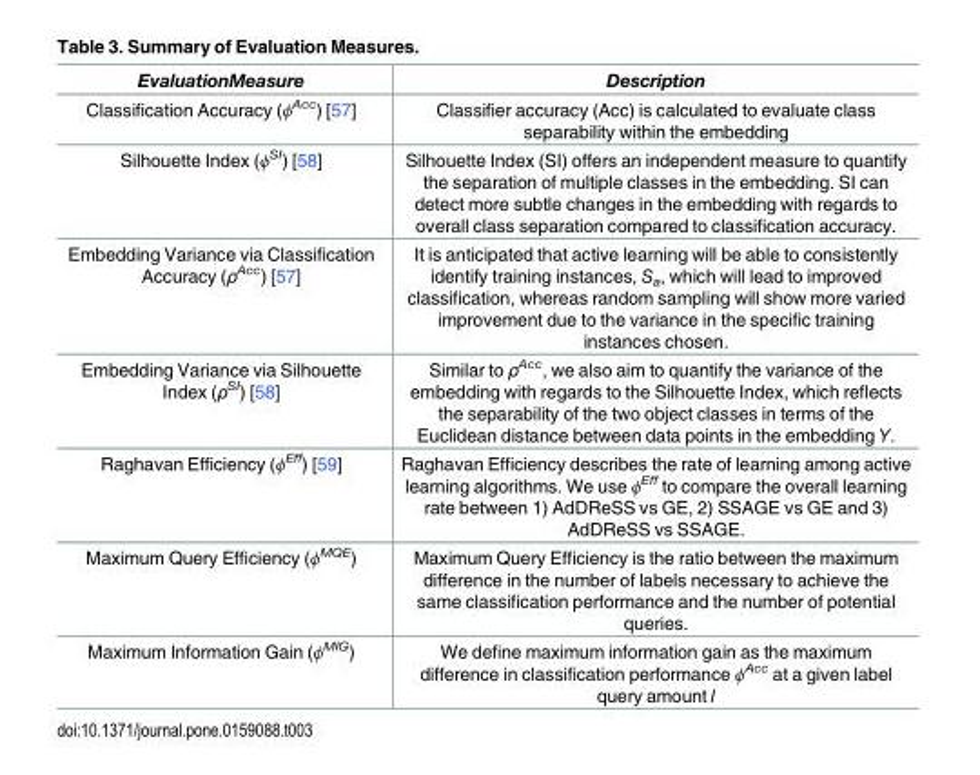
<table><thead><tr><td>EvaluationMeasure</td><td>Description</td></tr></thead><tbody><tr><td>Classification Accuracy (ϕ<sup>Acc</sup>) [57]</td><td>Classifier accuracy (Acc) is calculated to evaluate class separability within the embedding</td></tr><tr><td>Silhouette Index (ϕ<sup>SI</sup>) [58]</td><td>Silhouette Index (SI) offers an independent measure to quantify the separation of multiple classes in the embedding. SI can detect more subtle changes in the embedding with regards to overall class separation compared to classification accuracy.</td></tr><tr><td>Embedding Variance via Classification Accuracy (ρ<sup>Acc</sup>) [57]</td><td>It is anticipated that active learning will be able to consistently identify training instances, S<sub>a</sub>, which will lead to improved classification, whereas random sampling will show more varied improvement due to the variance in the specific training instances chosen.</td></tr><tr><td>Embedding Variance via Silhouette Index (ρ<sup>SI</sup>) [58]</td><td>Similar to ρ<sup>Acc</sup>, we also aim to quantify the variance of the embedding with regards to the Silhouette Index, which reflects the separability of the two object classes in terms of the Euclidean distance between data points in the embedding Y.</td></tr><tr><td>Raghavan Efficiency (ϕ<sup>Eff</sup>) [59]</td><td>Raghavan Efficiency describes the rate of learning among active learning algorithms. We use ϕ<sup>Eff</sup> to compare the overall learning rate between 1) AdDReSS vs GE, 2) SSAGE vs GE and 3) AdDReSS vs SSAGE.</td></tr><tr><td>Maximum Query Efficiency (ϕ<sup>MQE</sup>)</td><td>Maximum Query Efficiency is the ratio between the maximum difference in the number of labels necessary to achieve the same classification performance and the number of potential queries.</td></tr><tr><td>Maximum Information Gain (ϕ<sup>MIG</sup>)</td><td>We define maximum information gain as the maximum difference in classification performance ϕ<sup>Acc</sup> at a given label query amount l</td></tr></tbody></table>